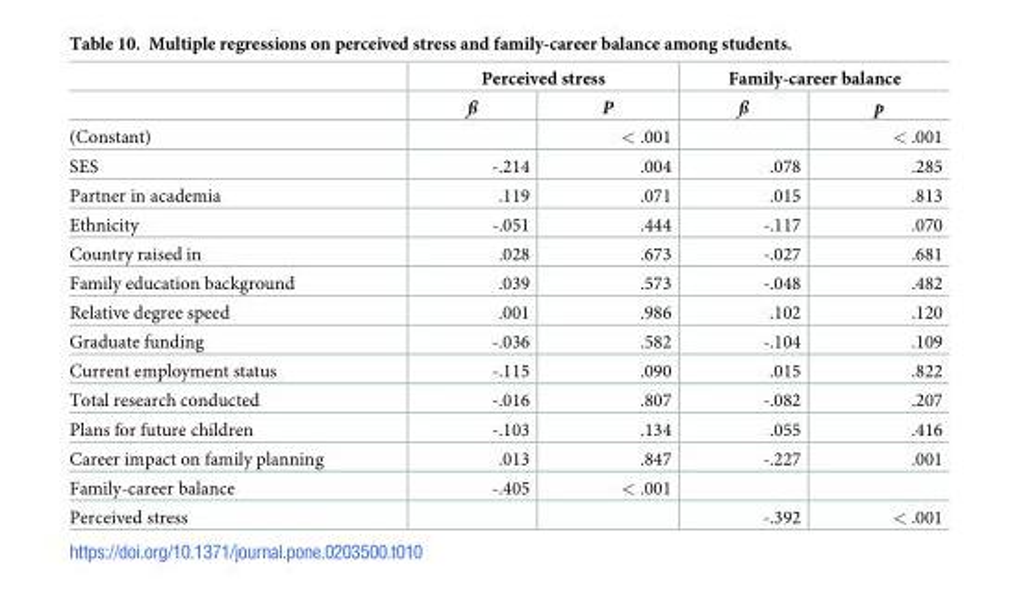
<table><thead><tr><td rowspan="2"></td><td colspan="2">Perceived stress</td><td colspan="2">Family-career balance</td></tr><tr><td>ß</td><td>P</td><td>ß</td><td>p</td></tr></thead><tbody><tr><td>(Constant)</td><td></td><td>&lt; .001</td><td></td><td>&lt; .001</td></tr><tr><td>SES</td><td>-.214</td><td>.004</td><td>.078</td><td>.285</td></tr><tr><td>Partner in academia</td><td>.119</td><td>.071</td><td>.015</td><td>.813</td></tr><tr><td>Ethnicity</td><td>-.051</td><td>.444</td><td>-.117</td><td>.070</td></tr><tr><td>Country raised in</td><td>.028</td><td>.673</td><td>-.027</td><td>.681</td></tr><tr><td>Family education background</td><td>.039</td><td>.573</td><td>-.048</td><td>.482</td></tr><tr><td>Relative degree speed</td><td>.001</td><td>.986</td><td>.102</td><td>.120</td></tr><tr><td>Graduate funding</td><td>-.036</td><td>.582</td><td>-.104</td><td>.109</td></tr><tr><td>Current employment status</td><td>-.115</td><td>.090</td><td>.015</td><td>.822</td></tr><tr><td>Total research conducted</td><td>-.016</td><td>.807</td><td>-.082</td><td>.207</td></tr><tr><td>Plans for future children</td><td>-.103</td><td>.134</td><td>.055</td><td>.416</td></tr><tr><td>Career impact on family planning</td><td>.013</td><td>.847</td><td>-.227</td><td>.001</td></tr><tr><td>Family-career balance</td><td>-.405</td><td>&lt; .001</td><td></td><td></td></tr><tr><td>Perceived stress</td><td></td><td></td><td>-.392</td><td>&lt; .001</td></tr></tbody></table>